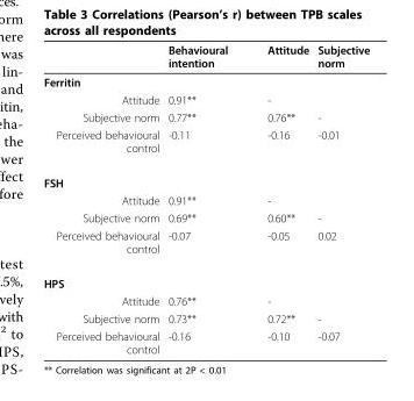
<table><thead><tr><td></td><td>Behavioural intention</td><td>Attitude</td><td>Subjective norm</td></tr></thead><tbody><tr><td colspan="4">Ferritin</td></tr><tr><td>Attitude</td><td>0.91**</td><td>-</td><td></td></tr><tr><td>Subjective norm</td><td>0.77**</td><td>0.76**</td><td>-</td></tr><tr><td>Perceived behavioural control</td><td>-0.11</td><td>-0.16</td><td>-0.01</td></tr><tr><td colspan="4">FSH</td></tr><tr><td>Attitude</td><td>0.91**</td><td>-</td><td></td></tr><tr><td>Subjective norm</td><td>0.69**</td><td>0.60**</td><td>-</td></tr><tr><td>Perceived behavioural control</td><td>-0.07</td><td>-0.05</td><td>0.02</td></tr><tr><td colspan="4">HPS</td></tr><tr><td>Attitude</td><td>0.76**</td><td>-</td><td></td></tr><tr><td>Subjective norm</td><td>0.73**</td><td>0.72**</td><td>-</td></tr><tr><td>Perceived behavioural control</td><td>-0.16</td><td>-0.10</td><td>-0.07</td></tr></tbody></table>